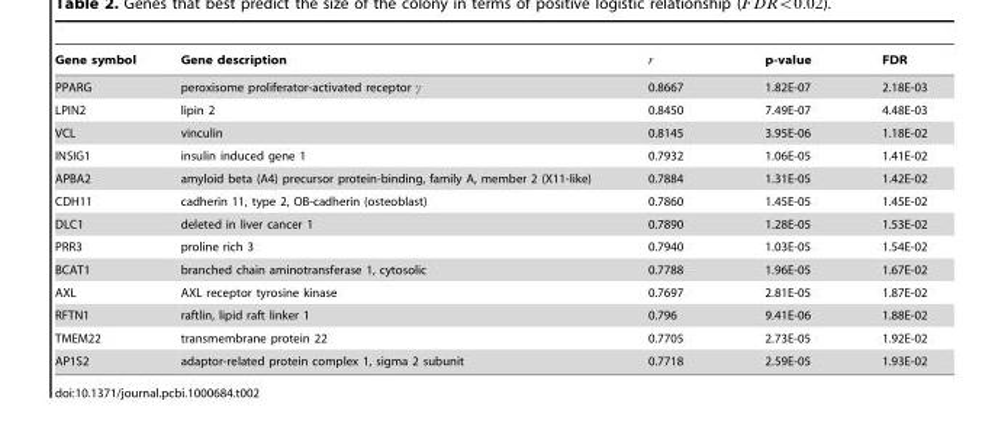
<table><thead><tr><td>Gene symbol</td><td>Gene description</td><td>r</td><td>p-value</td><td>FDR</td></tr></thead><tbody><tr><td>PPARG</td><td>peroxisome proliferator-activated receptor c</td><td>0.8667</td><td>1.82E-07</td><td>2.18E-03</td></tr><tr><td>LPIN2</td><td>lipin 2</td><td>0.8450</td><td>7.49E-07</td><td>4.48E-03</td></tr><tr><td>VCL</td><td>vinculin</td><td>0.8145</td><td>3.95E-06</td><td>1.18E-02</td></tr><tr><td>INSIG1</td><td>insulin induced gene 1</td><td>0.7932</td><td>1.06E-05</td><td>1.41E-02</td></tr><tr><td>APBA2</td><td>amyloid beta (A4) precursor protein-binding, family A, member 2 (X11-like)</td><td>0.7884</td><td>1.31E-05</td><td>1.42E-02</td></tr><tr><td>CDH11</td><td>cadherin 11, type 2, OB-cadherin (osteoblast)</td><td>0.7860</td><td>1.45E-05</td><td>1.45E-02</td></tr><tr><td>DLC1</td><td>deleted in liver cancer 1</td><td>0.7890</td><td>1.28E-05</td><td>1.53E-02</td></tr><tr><td>PRR3</td><td>proline rich 3</td><td>0.7940</td><td>1.03E-05</td><td>1.54E-02</td></tr><tr><td>BCAT1</td><td>branched chain aminotransferase 1, cytosolic</td><td>0.7788</td><td>1.96E-05</td><td>1.67E-02</td></tr><tr><td>AXL</td><td>AXL receptor tyrosine kinase</td><td>0.7697</td><td>2.81E-05</td><td>1.87E-02</td></tr><tr><td>RFTN1</td><td>raftlin, lipid raft linker 1</td><td>0.796</td><td>9.41E-06</td><td>1.88E-02</td></tr><tr><td>TMEM22</td><td>transmembrane protein 22</td><td>0.7705</td><td>2.73E-05</td><td>1.92E-02</td></tr><tr><td>AP1S2</td><td>adaptor-related protein complex 1, sigma 2 subunit</td><td>0.7718</td><td>2.59E-05</td><td>1.93E-02</td></tr></tbody></table>